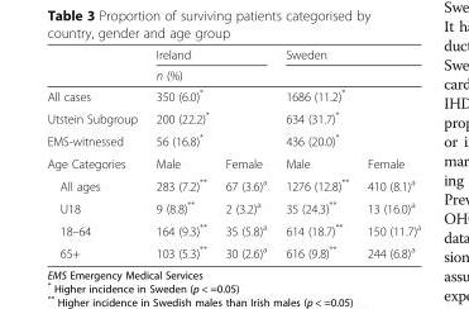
<table><thead><tr><td rowspan="2"></td><td colspan="2">Ireland</td><td colspan="2">Sweden</td></tr><tr><td colspan="4">n (%)</td></tr></thead><tbody><tr><td>All cases</td><td colspan="2">350 (6.0)*</td><td colspan="2">1686 (11.2)*</td></tr><tr><td>Utstein Subgroup</td><td colspan="2">200 (22.2)*</td><td colspan="2">634 (31.7)*</td></tr><tr><td>EMS-witnessed</td><td colspan="2">56 (16.8)*</td><td colspan="2">436 (20.0)*</td></tr><tr><td>Age Categories</td><td>Male</td><td>Female</td><td>Male</td><td>Female</td></tr><tr><td>All ages</td><td>283 (7.2)**</td><td>67 (3.6)<sup>a</sup></td><td>1276 (12.8)**</td><td>410 (8.1)<sup>a</sup></td></tr><tr><td>U18</td><td>9 (8.8)**</td><td>2 (3.2)<sup>a</sup></td><td>35 (24.3)**</td><td>13 (16.0)<sup>a</sup></td></tr><tr><td>18–64</td><td>164 (9.3)**</td><td>35 (5.8)<sup>a</sup></td><td>614 (18.7)**</td><td>150 (11.7)<sup>a</sup></td></tr><tr><td>65+</td><td>103 (5.3)**</td><td>30 (2.6)<sup>a</sup></td><td>616 (9.8)**</td><td>244 (6.8)<sup>a</sup></td></tr></tbody></table>